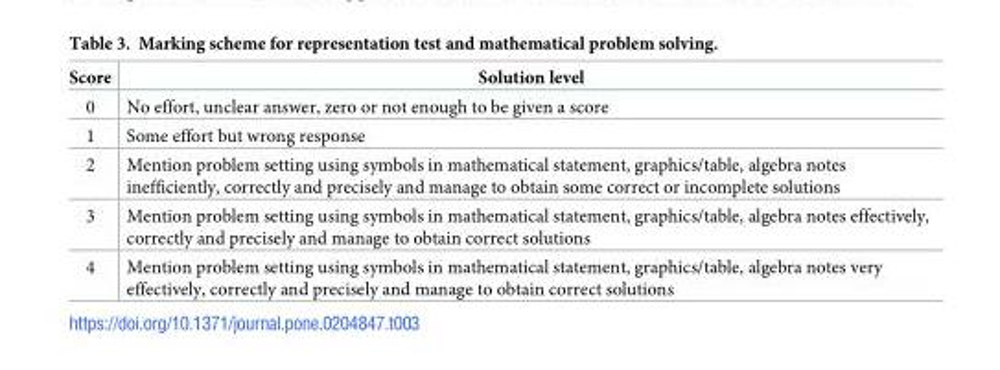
<table><thead><tr><td>Score</td><td>Solution level</td></tr></thead><tbody><tr><td>0</td><td>No effort, unclear answer, zero or not enough to be given a score</td></tr><tr><td>1</td><td>Some effort but wrong response</td></tr><tr><td>2</td><td>Mention problem setting using symbols in mathematical statement, graphics/table, algebra notes inefficiently, correctly and precisely and manage to obtain some correct or incomplete solutions</td></tr><tr><td>3</td><td>Mention problem setting using symbols in mathematical statement, graphics/table, algebra notes effectively, correctly and precisely and manage to obtain correct solutions</td></tr><tr><td>4</td><td>Mention problem setting using symbols in mathematical statement, graphics/table, algebra notes very effectively, correctly and precisely and manage to obtain correct solutions</td></tr></tbody></table>